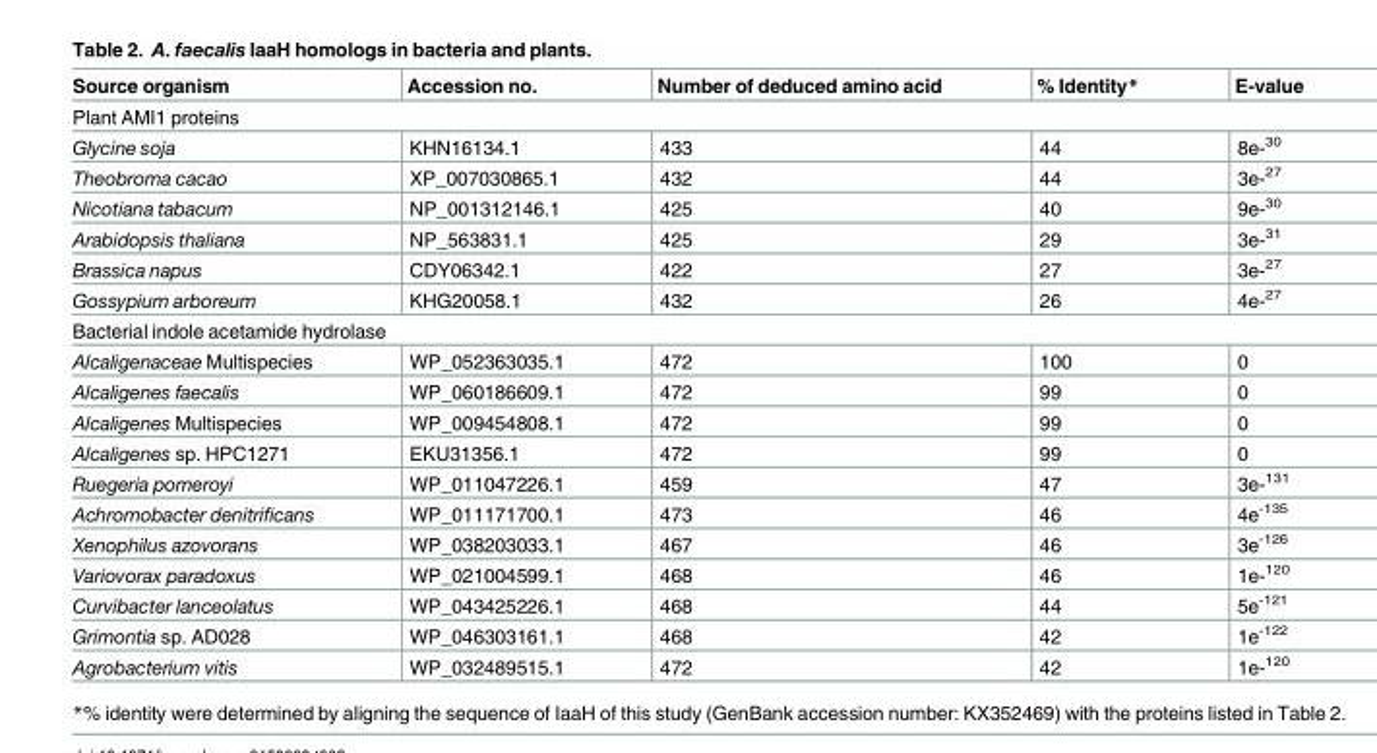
<table><thead><tr><td>Source organism</td><td>Accession no.</td><td>Number of deduced amino acid</td><td>% Identity*</td><td>E-value</td></tr></thead><tbody><tr><td colspan="5">Plant AMI1 proteins</td></tr><tr><td>Glycine soja</td><td>KHN16134.1</td><td>433</td><td>44</td><td>8e-<sup>30</sup></td></tr><tr><td>Theobroma cacao</td><td>XP_007030865.1</td><td>432</td><td>44</td><td>3e-<sup>27</sup></td></tr><tr><td>Nicotiana tabacum</td><td>NP_001312146.1</td><td>425</td><td>40</td><td>9e-<sup>30</sup></td></tr><tr><td>Arabidopsis thaliana</td><td>NP_563831.1</td><td>425</td><td>29</td><td>3e-<sup>31</sup></td></tr><tr><td>Brassica napus</td><td>CDY06342.1</td><td>422</td><td>27</td><td>3e-<sup>27</sup></td></tr><tr><td>Gossypium arboreum</td><td>KHG20058.1</td><td>432</td><td>26</td><td>4e-<sup>27</sup></td></tr><tr><td colspan="5">Bacterial indole acetamide hydrolase</td></tr><tr><td>Alcaligenaceae Multispecies</td><td>WP_052363035.1</td><td>472</td><td>100</td><td>0</td></tr><tr><td>Alcaligenes faecalis</td><td>WP_060186609.1</td><td>472</td><td>99</td><td>0</td></tr><tr><td>Alcaligenes Multispecies</td><td>WP_009454808.1</td><td>472</td><td>99</td><td>0</td></tr><tr><td>Alcaligenes sp. HPC1271</td><td>EKU31356.1</td><td>472</td><td>99</td><td>0</td></tr><tr><td>Ruegeria pomeroyi</td><td>WP_011047226.1</td><td>459</td><td>47</td><td>3e-<sup>131</sup></td></tr><tr><td>Achromobacter denitrificans</td><td>WP_011171700.1</td><td>473</td><td>46</td><td>4e<sup>-135</sup></td></tr><tr><td>Xenophilus azovorans</td><td>WP_038203033.1</td><td>467</td><td>46</td><td>3e<sup>-126</sup></td></tr><tr><td>Variovorax paradoxus</td><td>WP_021004599.1</td><td>468</td><td>46</td><td>1e-<sup>120</sup></td></tr><tr><td>Curvibacter lanceolatus</td><td>WP_043425226.1</td><td>468</td><td>44</td><td>5e<sup>-121</sup></td></tr><tr><td>Grimontia sp. AD028</td><td>WP_046303161.1</td><td>468</td><td>42</td><td>1e<sup>-122</sup></td></tr><tr><td>Agrobacterium vitis</td><td>WP_032489515.1</td><td>472</td><td>42</td><td>1e-<sup>120</sup></td></tr></tbody></table>